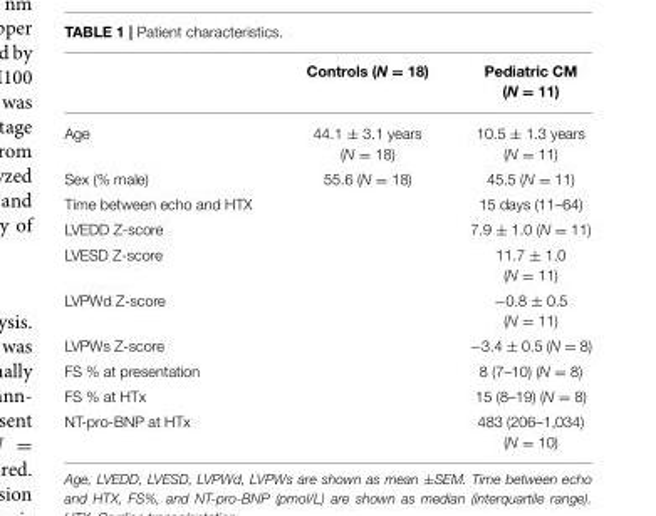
<table><thead><tr><td></td><td>Controls (N = 18)</td><td>Pediatric CM (N = 11)</td></tr></thead><tbody><tr><td>Age</td><td>44.1 ± 3.1 years (N = 18)</td><td>10.5 ± 1.3 years (N = 11)</td></tr><tr><td>Sex (% male)</td><td>55.6 (N = 18)</td><td>45.5 (N = 11)</td></tr><tr><td>Time between echo and HTX</td><td></td><td>15 days (11–64)</td></tr><tr><td>LVEDD Z-score</td><td></td><td>7.9 ± 1.0 (N = 11)</td></tr><tr><td>LVESD Z-score</td><td></td><td>11.7 ± 1.0 (N = 11)</td></tr><tr><td>LVPWd Z-score</td><td></td><td>−0.8 ± 0.5 (N = 11)</td></tr><tr><td>LVPWs Z-score</td><td></td><td>−3.4 ± 0.5 (N = 8)</td></tr><tr><td>FS % at presentation</td><td></td><td>8 (7–10) (N = 8)</td></tr><tr><td>FS % at HTx</td><td></td><td>15 (8–19) (N = 8)</td></tr><tr><td>NT-pro-BNP at HTx</td><td></td><td>483 (206–1,034) (N = 10)</td></tr></tbody></table>